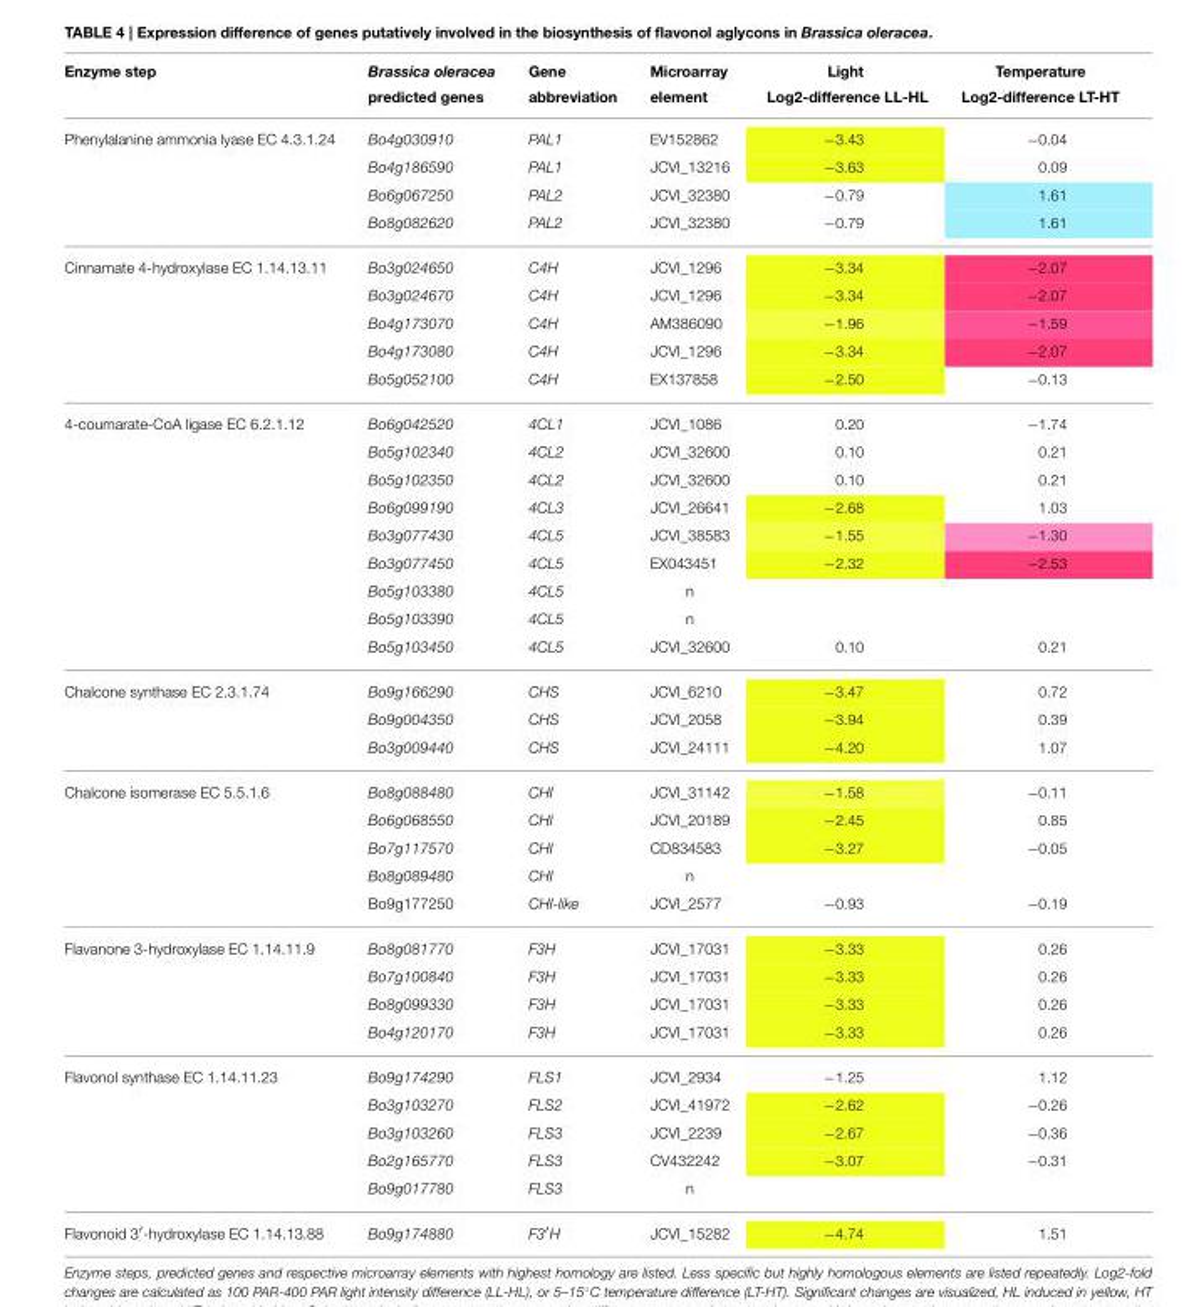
<table><thead><tr><td>Enzyme step</td><td>Brassica oleracea predicted genes</td><td>Gene abbreviation</td><td>Microarray element</td><td>Light Log2-difference LL-HL</td><td>Temperature Log2-difference LT-HT</td></tr></thead><tbody><tr><td rowspan="4">Phenylalanine ammonia lyase EC 4.3.1.24</td><td>Bo4g030910</td><td>PAL1</td><td>EV152862</td><td>−3.43</td><td>−0.04</td></tr><tr><td>Bo4g186590</td><td>PAL1</td><td>JCVI_13216</td><td>−3.63</td><td>0.09</td></tr><tr><td>Bo6g067250</td><td>PAL2</td><td>JCVI_32380</td><td>−0.79</td><td>1.61</td></tr><tr><td>Bo8g082620</td><td>PAL2</td><td>JCVI_32380</td><td>−0.79</td><td>1.61</td></tr><tr><td rowspan="5">Cinnamate 4-hydroxylase EC 1.14.13.11</td><td>Bo3g024650</td><td>C4H</td><td>JCVI_1296</td><td>−3.34</td><td>−2.07</td></tr><tr><td>Bo3g024670</td><td>C4H</td><td>JCVI_1296</td><td>−3.34</td><td>−2.07</td></tr><tr><td>Bo4g173070</td><td>C4H</td><td>AM386090</td><td>−1.96</td><td>−1.59</td></tr><tr><td>Bo4g173080</td><td>C4H</td><td>JCVI_1296</td><td>−3.34</td><td>−2.07</td></tr><tr><td>Bo5g052100</td><td>C4H</td><td>EX137858</td><td>−2.50</td><td>−0.13</td></tr><tr><td rowspan="9">4-coumarate-CoA ligase EC 6.2.1.12</td><td>Bo6g042520</td><td>4CL1</td><td>JCVI_1086</td><td>0.20</td><td>−1.74</td></tr><tr><td>Bo5g102340</td><td>4CL2</td><td>JCVI_32600</td><td>0.10</td><td>0.21</td></tr><tr><td>Bo5g102350</td><td>4CL2</td><td>JCVI_32600</td><td>0.10</td><td>0.21</td></tr><tr><td>Bo6g099190</td><td>4CL3</td><td>JCVI_26641</td><td>−2.68</td><td>1.03</td></tr><tr><td>Bo3g077430</td><td>4CL5</td><td>JCVI_38583</td><td>−1.55</td><td>−1.30</td></tr><tr><td>Bo3g077450</td><td>4CL5</td><td>EX043451</td><td>−2.32</td><td>−2.53</td></tr><tr><td>Bo5g103380</td><td>4CL5</td><td>n</td><td></td><td></td></tr><tr><td>Bo5g103390</td><td>4CL5</td><td>n</td><td></td><td></td></tr><tr><td>Bo5g103450</td><td>4CL5</td><td>JCVI_32600</td><td>0.10</td><td>0.21</td></tr><tr><td rowspan="3">Chalcone synthase EC 2.3.1.74</td><td>Bo9g166290</td><td>CHS</td><td>JCVI_6210</td><td>−3.47</td><td>0.72</td></tr><tr><td>Bo9g004350</td><td>CHS</td><td>JCVI_2058</td><td>−3.94</td><td>0.39</td></tr><tr><td>Bo3g009440</td><td>CHS</td><td>JCVI_24111</td><td>−4.20</td><td>1.07</td></tr><tr><td rowspan="5">Chalcone isomerase EC 5.5.1.6</td><td>Bo8g088480</td><td>CHI</td><td>JCVI_31142</td><td>−1.58</td><td>−0.11</td></tr><tr><td>Bo6g068550</td><td>CHI</td><td>JCVI_20189</td><td>−2.45</td><td>0.85</td></tr><tr><td>Bo7g117570</td><td>CHI</td><td>CD834583</td><td>−3.27</td><td>−0.05</td></tr><tr><td>Bo8g089480</td><td>CHI</td><td>n</td><td></td><td></td></tr><tr><td>Bo9g177250</td><td>CHI-like</td><td>JCVI_2577</td><td>−0.93</td><td>−0.19</td></tr><tr><td rowspan="4">Flavanone 3-hydroxylase EC 1.14.11.9</td><td>Bo8g081770</td><td>F3H</td><td>JCVI_17031</td><td>−3.33</td><td>0.26</td></tr><tr><td>Bo7g100840</td><td>F3H</td><td>JCVI_17031</td><td>−3.33</td><td>0.26</td></tr><tr><td>Bo8g099330</td><td>F3H</td><td>JCVI_17031</td><td>−3.33</td><td>0.26</td></tr><tr><td>Bo4g120170</td><td>F3H</td><td>JCVI_17031</td><td>−3.33</td><td>0.26</td></tr><tr><td rowspan="5">Flavonol synthase EC 1.14.11.23</td><td>Bo9g174290</td><td>FLS1</td><td>JCVI_2934</td><td>−1.25</td><td>1.12</td></tr><tr><td>Bo3g103270</td><td>FLS2</td><td>JCVI_41972</td><td>−2.62</td><td>−0.26</td></tr><tr><td>Bo3g103260</td><td>FLS3</td><td>JCVI_2239</td><td>−2.67</td><td>−0.36</td></tr><tr><td>Bo2g165770</td><td>FLS3</td><td>CV432242</td><td>−3.07</td><td>−0.31</td></tr><tr><td>Bo9g017780</td><td>FLS3</td><td>n</td><td></td><td></td></tr><tr><td>Flavonoid 3′-hydroxylase EC 1.14.13.88</td><td>Bo9g174880</td><td>F3′H</td><td>JCVI_15282</td><td>−4.74</td><td>1.51</td></tr></tbody></table>